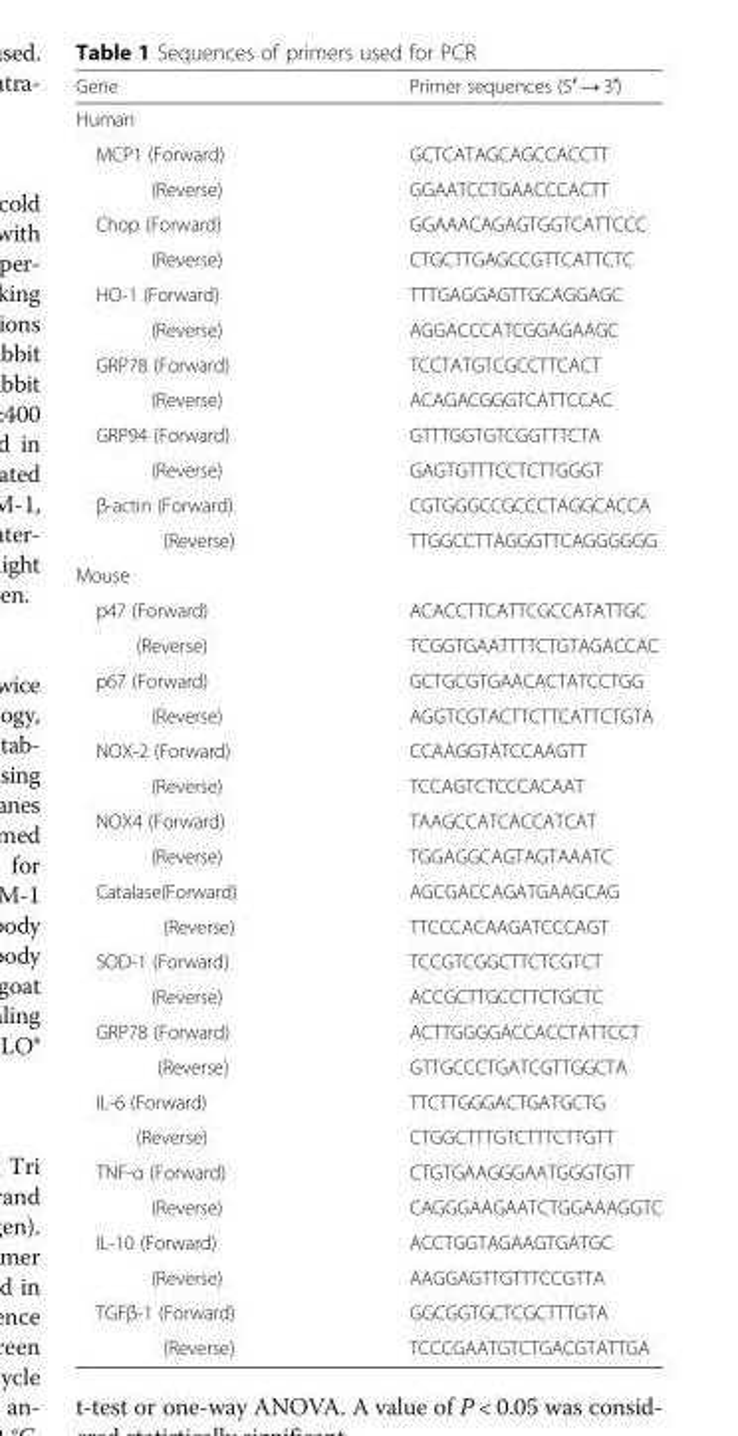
<table><thead><tr><td>Gene</td><td>Primer sequences (5′ → 3′)</td></tr></thead><tbody><tr><td colspan="2">Human</td></tr><tr><td>MCP1 (Forward)</td><td>GCTCATAGCAGCCACCTT</td></tr><tr><td>(Reverse)</td><td>GGAATCCTGAACCCACTT</td></tr><tr><td>Chop (Forward)</td><td>GGAAACAGAGTGGTCATTCCC</td></tr><tr><td>(Reverse)</td><td>CTGCTTGAGCCGTTCATTCTC</td></tr><tr><td>HO-1 (Forward)</td><td>TTTGAGGAGTTGCAGGAGC</td></tr><tr><td>(Reverse)</td><td>AGGACCCATCGGAGAAGC</td></tr><tr><td>GRP78 (Forward)</td><td>TCCTATGTCGCCTTCACT</td></tr><tr><td>(Reverse)</td><td>ACAGACGGGTCATTCCAC</td></tr><tr><td>GRP94 (Forward)</td><td>GTTTGGTGTCGGTTTCTA</td></tr><tr><td>(Reverse)</td><td>GAGTGTTTCCTCTTGGGT</td></tr><tr><td>β-actin (Forward)</td><td>CGTGGGCCGCCCTAGGCACCA</td></tr><tr><td>(Reverse)</td><td>TTGGCCTTAGGGTTCAGGGGGG</td></tr><tr><td colspan="2">Mouse</td></tr><tr><td>p47 (Forward)</td><td>ACACCTTCATTCGCCATATTGC</td></tr><tr><td>(Reverse)</td><td>TCGGTGAATTTTCTGTAGACCAC</td></tr><tr><td>p67 (Forward)</td><td>GCTGCGTGAACACTATCCTGG</td></tr><tr><td>(Reverse)</td><td>AGGTCGTACTTCTTCATTCTGTA</td></tr><tr><td>NOX-2 (Forward)</td><td>CCAAGGTATCCAAGTT</td></tr><tr><td>(Reverse)</td><td>TCCAGTCTCCCACAAT</td></tr><tr><td>NOX4 (Forward)</td><td>TAAGCCATCACCATCAT</td></tr><tr><td>(Reverse)</td><td>TGGAGGCAGTAGTAAATC</td></tr><tr><td>Catalase(Forward)</td><td>AGCGACCAGATGAAGCAG</td></tr><tr><td>(Reverse)</td><td>TTCCCACAAGATCCCAGT</td></tr><tr><td>SOD-1 (Forward)</td><td>TCCGTCGGCTTCTCGTCT</td></tr><tr><td>(Reverse)</td><td>ACCGCTTGCCTTCTGCTC</td></tr><tr><td>GRP78 (Forward)</td><td>ACTTGGGGACCACCTATTCCT</td></tr><tr><td>(Reverse)</td><td>GTTGCCCTGATCGTTGGCTA</td></tr><tr><td>IL-6 (Forward)</td><td>TTCTTGGGACTGATGCTG</td></tr><tr><td>(Reverse)</td><td>CTGGCTTTGTCTTTCTTGTT</td></tr><tr><td>TNF-α (Forward)</td><td>CTGTGAAGGGAATGGGTGTT</td></tr><tr><td>(Reverse)</td><td>CAGGGAAGAATCTGGAAAGGTC</td></tr><tr><td>IL-10 (Forward)</td><td>ACCTGGTAGAAGTGATGC</td></tr><tr><td>(Reverse)</td><td>AAGGAGTTGTTTCCGTTA</td></tr><tr><td>TGFβ-1 (Forward)</td><td>GGCGGTGCTCGCTTTGTA</td></tr><tr><td>(Reverse)</td><td>TCCCGAATGTCTGACGTATTGA</td></tr></tbody></table>